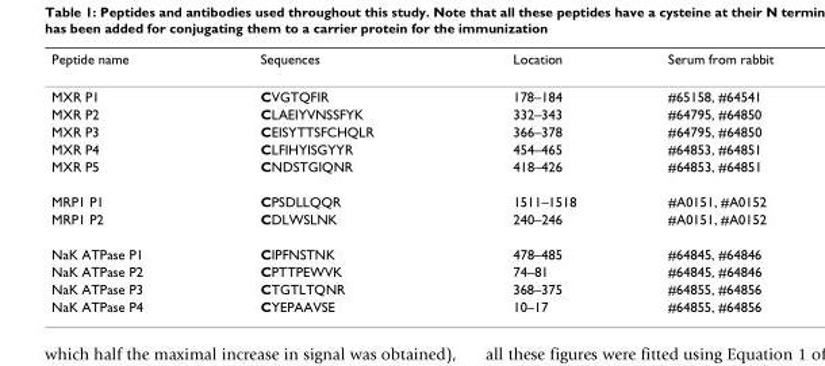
<table><thead><tr><td>Peptide name</td><td>Sequences</td><td>Location</td><td>Serum from rabbit</td></tr></thead><tbody><tr><td>MXR P1</td><td>CVGTQFIR</td><td>178–184</td><td>#65158, #64541</td></tr><tr><td>MXR P2</td><td>CLAEIYVNSSFYK</td><td>332–343</td><td>#64795, #64850</td></tr><tr><td>MXR P3</td><td>CEISYTTSFCHQLR</td><td>366–378</td><td>#64795, #64850</td></tr><tr><td>MXR P4</td><td>CLFIHYISGYYR</td><td>454–465</td><td>#64853, #64851</td></tr><tr><td>MXR P5</td><td>CNDSTGIQNR</td><td>418–426</td><td>#64853, #64851</td></tr><tr><td>MRP1 P1</td><td>CPSDLLQQR</td><td>1511–1518</td><td>#A0151, #A0152</td></tr><tr><td>MRP1 P2</td><td>CDLWSLNK</td><td>240–246</td><td>#A0151, #A0152</td></tr><tr><td>NaK ATPase P1</td><td>CIPFNSTNK</td><td>478–485</td><td>#64845, #64846</td></tr><tr><td>NaK ATPase P2</td><td>CPTTPEWVK</td><td>74–81</td><td>#64845, #64846</td></tr><tr><td>NaK ATPase P3</td><td>CTGTLTQNR</td><td>368–375</td><td>#64855, #64856</td></tr><tr><td>NaK ATPase P4</td><td>CYEPAAVSE</td><td>10–17</td><td>#64855, #64856</td></tr></tbody></table>